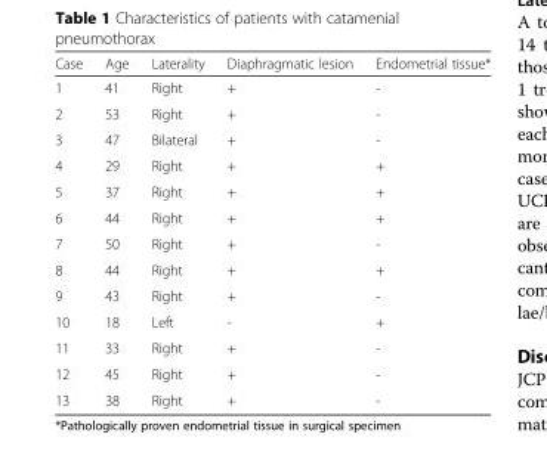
<table><thead><tr><td>Case</td><td>Age</td><td>Laterality</td><td>Diaphragmatic lesion</td><td>Endometrial tissue*</td></tr></thead><tbody><tr><td>1</td><td>41</td><td>Right</td><td>+</td><td>-</td></tr><tr><td>2</td><td>53</td><td>Right</td><td>+</td><td>-</td></tr><tr><td>3</td><td>47</td><td>Bilateral</td><td>+</td><td>-</td></tr><tr><td>4</td><td>29</td><td>Right</td><td>+</td><td>+</td></tr><tr><td>5</td><td>37</td><td>Right</td><td>+</td><td>+</td></tr><tr><td>6</td><td>44</td><td>Right</td><td>+</td><td>+</td></tr><tr><td>7</td><td>50</td><td>Right</td><td>+</td><td>-</td></tr><tr><td>8</td><td>44</td><td>Right</td><td>+</td><td>+</td></tr><tr><td>9</td><td>43</td><td>Right</td><td>+</td><td>-</td></tr><tr><td>10</td><td>18</td><td>Left</td><td>-</td><td>+</td></tr><tr><td>11</td><td>33</td><td>Right</td><td>+</td><td>-</td></tr><tr><td>12</td><td>45</td><td>Right</td><td>+</td><td>-</td></tr><tr><td>13</td><td>38</td><td>Right</td><td>+</td><td>-</td></tr></tbody></table>